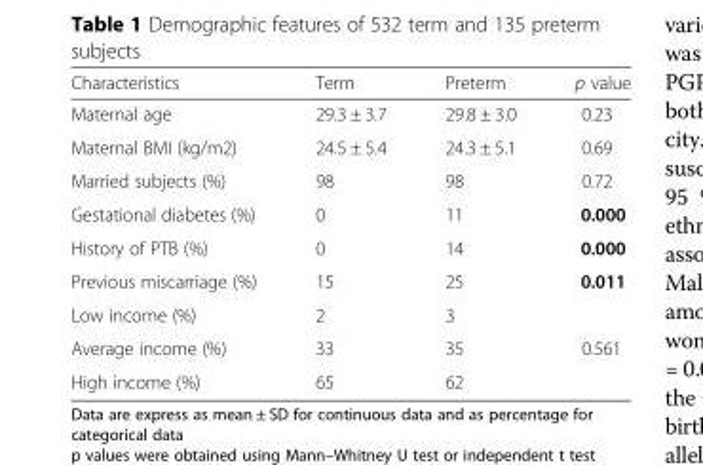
<table><thead><tr><td>Characteristics</td><td>Term</td><td>Preterm</td><td>p value</td></tr></thead><tbody><tr><td>Maternal age</td><td>29.3 ± 3.7</td><td>29.8 ± 3.0</td><td>0.23</td></tr><tr><td>Maternal BMI (kg/m2)</td><td>24.5 ± 5.4</td><td>24.3 ± 5.1</td><td>0.69</td></tr><tr><td>Married subjects (%)</td><td>98</td><td>98</td><td>0.72</td></tr><tr><td>Gestational diabetes (%)</td><td>0</td><td>11</td><td>0.000</td></tr><tr><td>History of PTB (%)</td><td>0</td><td>14</td><td>0.000</td></tr><tr><td>Previous miscarriage (%)</td><td>15</td><td>25</td><td>0.011</td></tr><tr><td>Low income (%)</td><td>2</td><td>3</td><td></td></tr><tr><td>Average income (%)</td><td>33</td><td>35</td><td>0.561</td></tr><tr><td>High income (%)</td><td>65</td><td>62</td><td></td></tr></tbody></table>